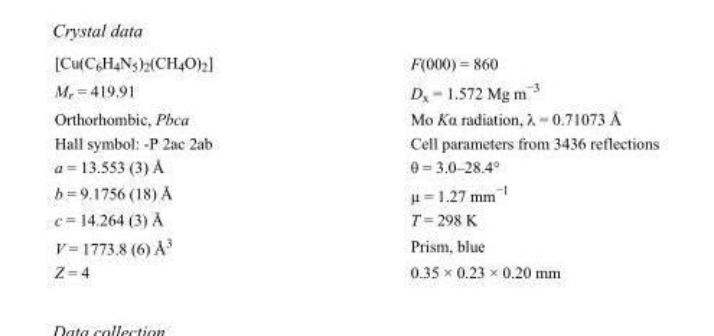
<table><tbody><tr><td>[Cu(C<sub>6</sub>H<sub>4</sub>N<sub>5</sub>)<sub>2</sub>(CH<sub>4</sub>O)<sub>2</sub>]</td><td>F(000) = 860</td></tr><tr><td>M<sub>r</sub> = 419.91</td><td>D<sub>x</sub> = 1.572 Mg m<sup>−3</sup></td></tr><tr><td>Orthorhombic, Pbca</td><td>Mo Kα radiation, λ = 0.71073 Å</td></tr><tr><td>Hall symbol: -P 2ac 2ab</td><td>Cell parameters from 3436 reflections</td></tr><tr><td>a = 13.553 (3) Å</td><td>θ = 3.0–28.4°</td></tr><tr><td>b = 9.1756 (18) Å</td><td>µ = 1.27 mm<sup>−1</sup></td></tr><tr><td>c = 14.264 (3) Å</td><td>T = 298 K</td></tr><tr><td>V = 1773.8 (6) Å<sup>3</sup></td><td>Prism, blue</td></tr><tr><td>Z = 4</td><td>0.35 × 0.23 × 0.20 mm</td></tr></tbody></table>